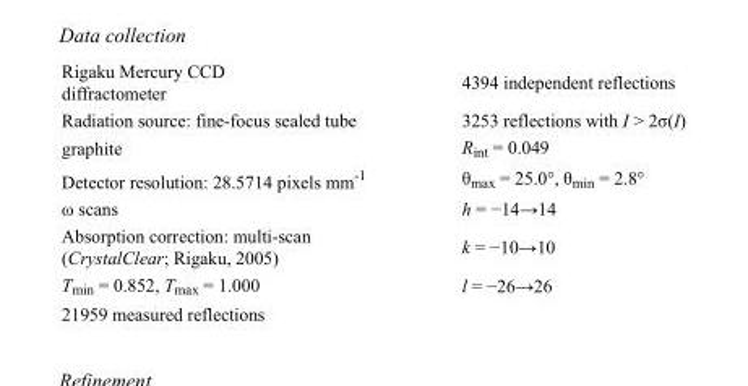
<table><tbody><tr><td>Rigaku Mercury CCD diffractometer</td><td>4394 independent reflections</td></tr><tr><td>Radiation source: fine-focus sealed tube</td><td>3253 reflections with I &gt; 2σ(I)</td></tr><tr><td>graphite</td><td>R<sub>int</sub> = 0.049</td></tr><tr><td>Detector resolution: 28.5714 pixels mm<sup>-1</sup></td><td>θ<sub>max</sub> = 25.0°, θ<sub>min</sub> = 2.8°</td></tr><tr><td>ω scans</td><td>h = −14→14</td></tr><tr><td>Absorption correction: multi-scan (CrystalClear; Rigaku, 2005)</td><td>k = −10→10</td></tr><tr><td>T<sub>min</sub> = 0.852, T<sub>max</sub> = 1.000</td><td>l = −26→26</td></tr><tr><td>21959 measured reflections</td><td></td></tr></tbody></table>